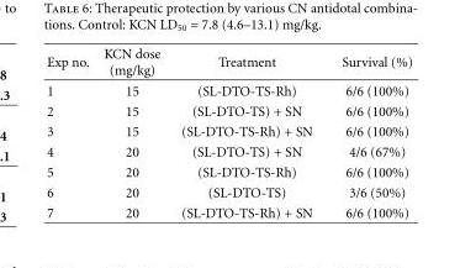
<table><thead><tr><td>Exp no.</td><td>KCN dose (mg/kg)</td><td>Treatment</td><td>Survival (%)</td></tr></thead><tbody><tr><td>1</td><td>15</td><td>(SL-DTO-TS-Rh)</td><td>6/6 (100%)</td></tr><tr><td>2</td><td>15</td><td>(SL-DTO-TS) + SN</td><td>6/6 (100%)</td></tr><tr><td>3</td><td>15</td><td>(SL-DTO-TS-Rh) + SN</td><td>6/6 (100%)</td></tr><tr><td>4</td><td>20</td><td>(SL-DTO-TS) + SN</td><td>4/6 (67%)</td></tr><tr><td>5</td><td>20</td><td>(SL-DTO-TS-Rh)</td><td>6/6 (100%)</td></tr><tr><td>6</td><td>20</td><td>(SL-DTO-TS)</td><td>3/6 (50%)</td></tr><tr><td>7</td><td>20</td><td>(SL-DTO-TS-Rh) + SN</td><td>6/6 (100%)</td></tr></tbody></table>